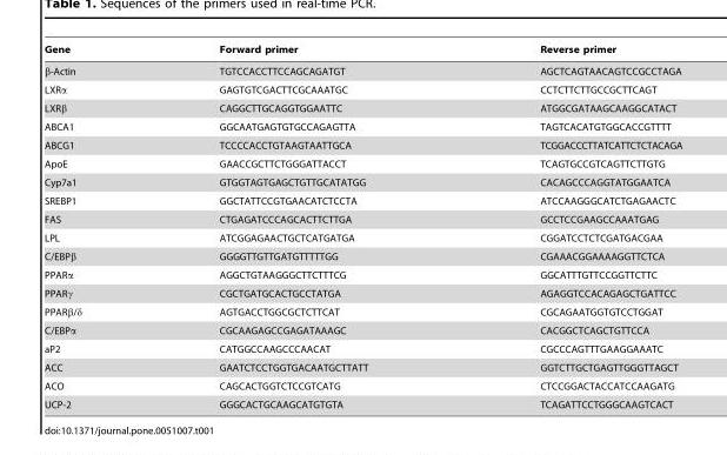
<table><thead><tr><td>Gene</td><td>Forward primer</td><td>Reverse primer</td></tr></thead><tbody><tr><td>β-Actin</td><td>TGTCCACCTTCCAGCAGATGT</td><td>AGCTCAGTAACAGTCCGCCTAGA</td></tr><tr><td>LXRα</td><td>GAGTGTCGACTTCGCAAATGC</td><td>CCTCTTCTTGCCGCTTCAGT</td></tr><tr><td>LXRβ</td><td>CAGGCTTGCAGGTGGAATTC</td><td>ATGGCGATAAGCAAGGCATACT</td></tr><tr><td>ABCA1</td><td>GGCAATGAGTGTGCCAGAGTTA</td><td>TAGTCACATGTGGCACCGTTTT</td></tr><tr><td>ABCG1</td><td>TCCCCACCTGTAAGTAATTGCA</td><td>TCGGACCCTTATCATTCTCTACAGA</td></tr><tr><td>ApoE</td><td>GAACCGCTTCTGGGATTACCT</td><td>TCAGTGCCGTCAGTTCTTGTG</td></tr><tr><td>Cyp7a1</td><td>GTGGTAGTGAGCTGTTGCATATGG</td><td>CACAGCCCAGGTATGGAATCA</td></tr><tr><td>SREBP1</td><td>GGCTATTCCGTGAACATCTCCTA</td><td>ATCCAAGGGCATCTGAGAACTC</td></tr><tr><td>FAS</td><td>CTGAGATCCCAGCACTTCTTGA</td><td>GCCTCCGAAGCCAAATGAG</td></tr><tr><td>LPL</td><td>ATCGGAGAACTGCTCATGATGA</td><td>CGGATCCTCTCGATGACGAA</td></tr><tr><td>C/EBPβ</td><td>GGGGTTGTTGATGTTTTTGG</td><td>CGAAACGGAAAAGGTTCTCA</td></tr><tr><td>PPARα</td><td>AGGCTGTAAGGGCTTCTTTCG</td><td>GGCATTTGTTCCGGTTCTTC</td></tr><tr><td>PPARγ</td><td>CGCTGATGCACTGCCTATGA</td><td>AGAGGTCCACAGAGCTGATTCC</td></tr><tr><td>PPARβ/δ</td><td>AGTGACCTGGCGCTCTTCAT</td><td>CGCAGAATGGTGTCCTGGAT</td></tr><tr><td>C/EBPα</td><td>CGCAAGAGCCGAGATAAAGC</td><td>CACGGCTCAGCTGTTCCA</td></tr><tr><td>aP2</td><td>CATGGCCAAGCCCAACAT</td><td>CGCCCAGTTTGAAGGAAATC</td></tr><tr><td>ACC</td><td>GAATCTCCTGGTGACAATGCTTATT</td><td>GGTCTTGCTGAGTTGGGTTAGCT</td></tr><tr><td>ACO</td><td>CAGCACTGGTCTCCGTCATG</td><td>CTCCGGACTACCATCCAAGATG</td></tr><tr><td>UCP-2</td><td>GGGCACTGCAAGCATGTGTA</td><td>TCAGATTCCTGGGCAAGTCACT</td></tr></tbody></table>